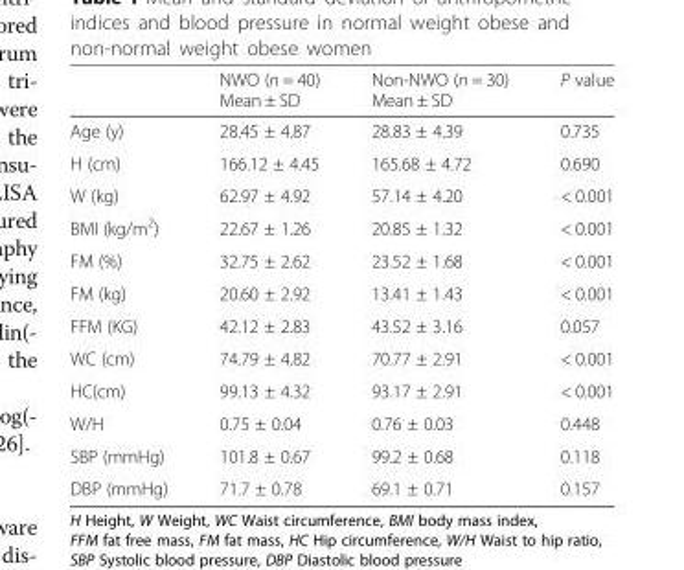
<table><thead><tr><td></td><td>NWO (n = 40) Mean ± SD</td><td>Non-NWO (n = 30) Mean ± SD</td><td>P value</td></tr></thead><tbody><tr><td>Age (y)</td><td>28.45 ± 4.87</td><td>28.83 ± 4.39</td><td>0.735</td></tr><tr><td>H (cm)</td><td>166.12 ± 4.45</td><td>165.68 ± 4.72</td><td>0.690</td></tr><tr><td>W (kg)</td><td>62.97 ± 4.92</td><td>57.14 ± 4.20</td><td>&lt; 0.001</td></tr><tr><td>BMI (kg/m<sup>2</sup>)</td><td>22.67 ± 1.26</td><td>20.85 ± 1.32</td><td>&lt; 0.001</td></tr><tr><td>FM (%)</td><td>32.75 ± 2.62</td><td>23.52 ± 1.68</td><td>&lt; 0.001</td></tr><tr><td>FM (kg)</td><td>20.60 ± 2.92</td><td>13.41 ± 1.43</td><td>&lt; 0.001</td></tr><tr><td>FFM (KG)</td><td>42.12 ± 2.83</td><td>43.52 ± 3.16</td><td>0.057</td></tr><tr><td>WC (cm)</td><td>74.79 ± 4.82</td><td>70.77 ± 2.91</td><td>&lt; 0.001</td></tr><tr><td>HC(cm)</td><td>99.13 ± 4.32</td><td>93.17 ± 2.91</td><td>&lt; 0.001</td></tr><tr><td>W/H</td><td>0.75 ± 0.04</td><td>0.76 ± 0.03</td><td>0.448</td></tr><tr><td>SBP (mmHg)</td><td>101.8 ± 0.67</td><td>99.2 ± 0.68</td><td>0.118</td></tr><tr><td>DBP (mmHg)</td><td>71.7 ± 0.78</td><td>69.1 ± 0.71</td><td>0.157</td></tr></tbody></table>